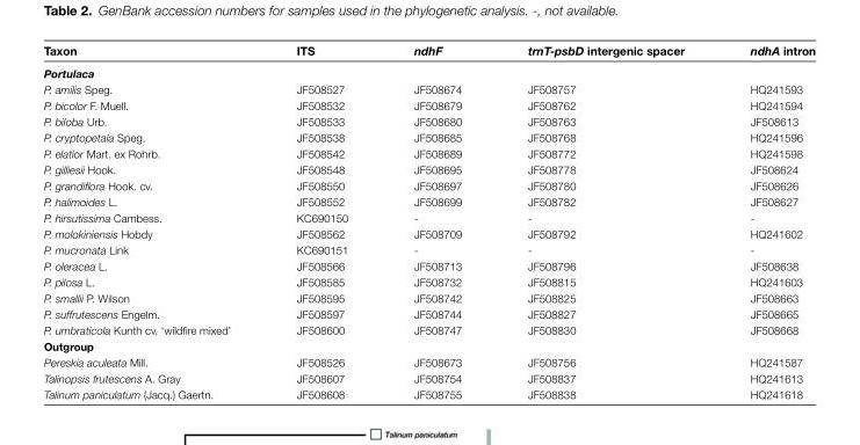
<table><thead><tr><td>Taxon</td><td>ITS</td><td>ndhF</td><td>trnT-psbD intergenic spacer</td><td>ndhA intron</td></tr></thead><tbody><tr><td colspan="5">Portulaca</td></tr><tr><td>P. amilis Speg.</td><td>JF508527</td><td>JF508674</td><td>JF508757</td><td>HQ241593</td></tr><tr><td>P. bicolor F. Muell.</td><td>JF508532</td><td>JF508679</td><td>JF508762</td><td>HQ241594</td></tr><tr><td>P. biloba Urb.</td><td>JF508533</td><td>JF508680</td><td>JF508763</td><td>JF508613</td></tr><tr><td>P. cryptopetala Speg.</td><td>JF508538</td><td>JF508685</td><td>JF508768</td><td>HQ241596</td></tr><tr><td>P. elatior Mart. ex Rohrb.</td><td>JF508542</td><td>JF508689</td><td>JF508772</td><td>HQ241598</td></tr><tr><td>P. gilliesii Hook.</td><td>JF508548</td><td>JF508695</td><td>JF508778</td><td>JF508624</td></tr><tr><td>P. grandiflora Hook. cv.</td><td>JF508550</td><td>JF508697</td><td>JF508780</td><td>JF508626</td></tr><tr><td>P. halimoides L.</td><td>JF508552</td><td>JF508699</td><td>JF508782</td><td>JF508627</td></tr><tr><td>P. hirsutissima Cambess.</td><td>KC690150</td><td>-</td><td>-</td><td>-</td></tr><tr><td>P. molokiniensis Hobdy</td><td>JF508562</td><td>JF508709</td><td>JF508792</td><td>HQ241602</td></tr><tr><td>P. mucronata Link</td><td>KC690151</td><td>-</td><td>-</td><td>-</td></tr><tr><td>P. oleracea L.</td><td>JF508566</td><td>JF508713</td><td>JF508796</td><td>JF508638</td></tr><tr><td>P. pilosa L.</td><td>JF508585</td><td>JF508732</td><td>JF508815</td><td>HQ241603</td></tr><tr><td>P. smallii P. Wilson</td><td>JF508595</td><td>JF508742</td><td>JF508825</td><td>JF508663</td></tr><tr><td>P. suffrutescens Engelm.</td><td>JF508597</td><td>JF508744</td><td>JF508827</td><td>JF508665</td></tr><tr><td>P. umbraticola Kunth cv. ‘wildfire mixed’</td><td>JF508600</td><td>JF508747</td><td>JF508830</td><td>JF508668</td></tr><tr><td colspan="5">Outgroup</td></tr><tr><td>Pereskia aculeata Mill.</td><td>JF508526</td><td>JF508673</td><td>JF508756</td><td>HQ241587</td></tr><tr><td>Talinopsis frutescens A. Gray</td><td>JF508607</td><td>JF508754</td><td>JF508837</td><td>HQ241613</td></tr><tr><td>Talinum paniculatum (Jacq.) Gaertn.</td><td>JF508608</td><td>JF508755</td><td>JF508838</td><td>HQ241618</td></tr></tbody></table>